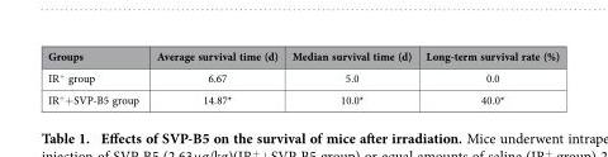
<table><thead><tr><td>Groups</td><td>Average survival time (d)</td><td>Median survival time (d)</td><td>Long-term survival rate (%)</td></tr></thead><tbody><tr><td>IR<sup>+</sup> group</td><td>6.67</td><td>5.0</td><td>0.0</td></tr><tr><td>IR<sup>+</sup>+SVP-B5 group</td><td>14.87*</td><td>10.0*</td><td>40.0*</td></tr></tbody></table>